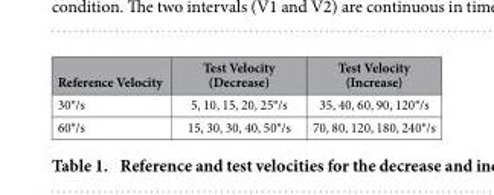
<table><thead><tr><td>Reference Velocity</td><td>Test Velocity (Decrease)</td><td>Test Velocity (Increase)</td></tr></thead><tbody><tr><td>30°/s</td><td>5, 10, 15, 20, 25°/s</td><td>35, 40, 60, 90, 120°/s</td></tr><tr><td>60°/s</td><td>15, 30, 30, 40, 50°/s</td><td>70, 80, 120, 180, 240°/s</td></tr></tbody></table>